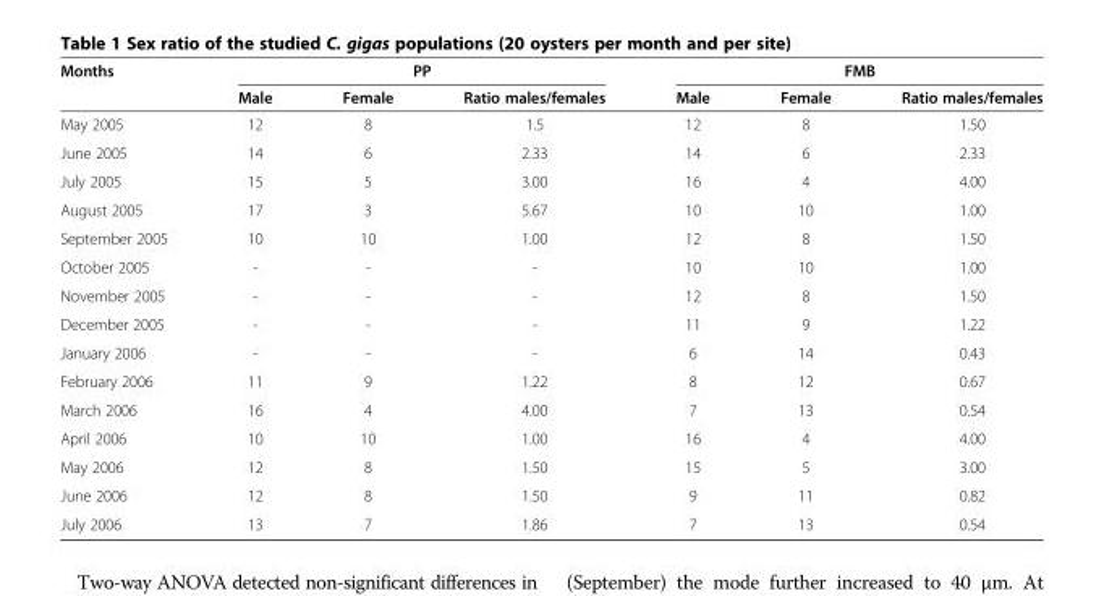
<table><thead><tr><td rowspan="2">Months</td><td colspan="3">PP</td><td colspan="3">FMB</td></tr><tr><td>Male</td><td>Female</td><td>Ratio males/females</td><td>Male</td><td>Female</td><td>Ratio males/females</td></tr></thead><tbody><tr><td>May 2005</td><td>12</td><td>8</td><td>1.5</td><td>12</td><td>8</td><td>1.50</td></tr><tr><td>June 2005</td><td>14</td><td>6</td><td>2.33</td><td>14</td><td>6</td><td>2.33</td></tr><tr><td>July 2005</td><td>15</td><td>5</td><td>3.00</td><td>16</td><td>4</td><td>4.00</td></tr><tr><td>August 2005</td><td>17</td><td>3</td><td>5.67</td><td>10</td><td>10</td><td>1.00</td></tr><tr><td>September 2005</td><td>10</td><td>10</td><td>1.00</td><td>12</td><td>8</td><td>1.50</td></tr><tr><td>October 2005</td><td>-</td><td>-</td><td>-</td><td>10</td><td>10</td><td>1.00</td></tr><tr><td>November 2005</td><td>-</td><td>-</td><td>-</td><td>12</td><td>8</td><td>1.50</td></tr><tr><td>December 2005</td><td>-</td><td>-</td><td>-</td><td>11</td><td>9</td><td>1.22</td></tr><tr><td>January 2006</td><td>-</td><td>-</td><td>-</td><td>6</td><td>14</td><td>0.43</td></tr><tr><td>February 2006</td><td>11</td><td>9</td><td>1.22</td><td>8</td><td>12</td><td>0.67</td></tr><tr><td>March 2006</td><td>16</td><td>4</td><td>4.00</td><td>7</td><td>13</td><td>0.54</td></tr><tr><td>April 2006</td><td>10</td><td>10</td><td>1.00</td><td>16</td><td>4</td><td>4.00</td></tr><tr><td>May 2006</td><td>12</td><td>8</td><td>1.50</td><td>15</td><td>5</td><td>3.00</td></tr><tr><td>June 2006</td><td>12</td><td>8</td><td>1.50</td><td>9</td><td>11</td><td>0.82</td></tr><tr><td>July 2006</td><td>13</td><td>7</td><td>1.86</td><td>7</td><td>13</td><td>0.54</td></tr></tbody></table>